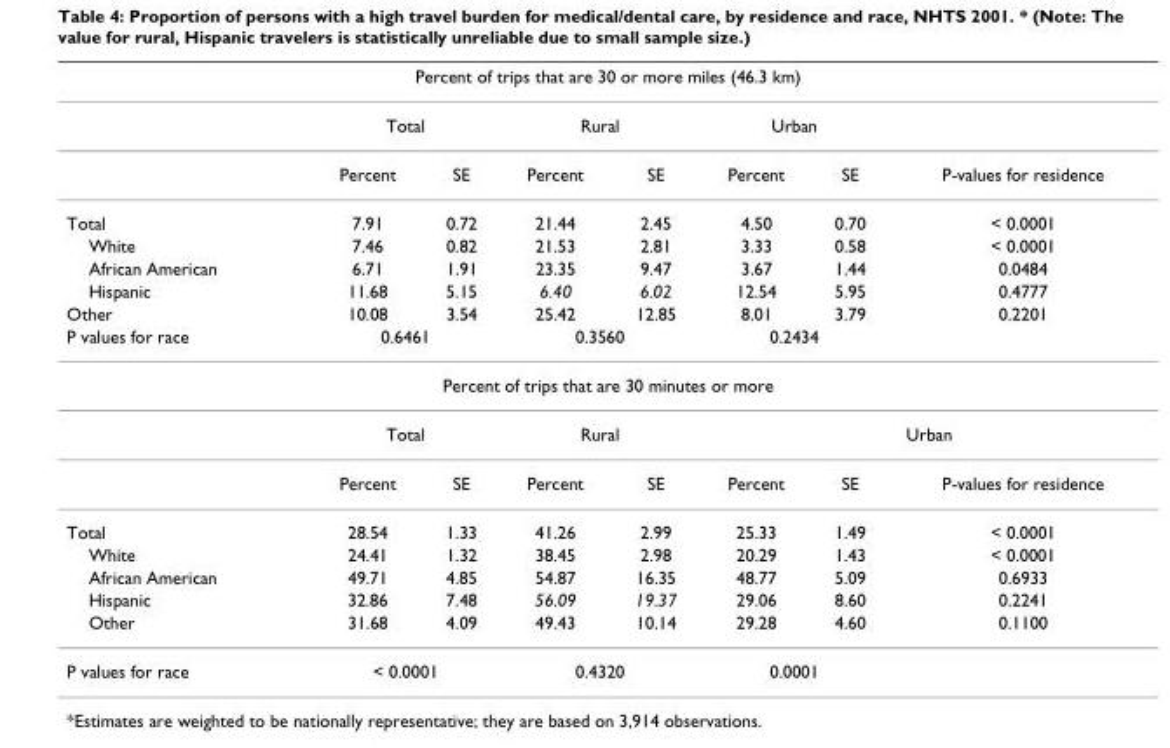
<table><thead><tr><td colspan="8">Percent of trips that are 30 or more miles (46.3 km)</td></tr><tr><td rowspan="2"></td><td colspan="2">Total</td><td colspan="2">Rural</td><td colspan="2">Urban</td><td rowspan="2">P-values for residence</td></tr><tr><td>Percent</td><td>SE</td><td>Percent</td><td>SE</td><td>Percent</td><td>SE</td></tr></thead><tbody><tr><td>Total</td><td>7.91</td><td>0.72</td><td>21.44</td><td>2.45</td><td>4.50</td><td>0.70</td><td>&lt; 0.0001</td></tr><tr><td>White</td><td>7.46</td><td>0.82</td><td>21.53</td><td>2.81</td><td>3.33</td><td>0.58</td><td>&lt; 0.0001</td></tr><tr><td>African American</td><td>6.71</td><td>1.91</td><td>23.35</td><td>9.47</td><td>3.67</td><td>1.44</td><td>0.0484</td></tr><tr><td>Hispanic</td><td>11.68</td><td>5.15</td><td>6.40</td><td>6.02</td><td>12.54</td><td>5.95</td><td>0.4777</td></tr><tr><td>Other</td><td>10.08</td><td>3.54</td><td>25.42</td><td>12.85</td><td>8.01</td><td>3.79</td><td>0.2201</td></tr><tr><td>P values for race</td><td colspan="2">0.6461</td><td colspan="2">0.3560</td><td colspan="2">0.2434</td><td></td></tr><tr><td colspan="8">Percent of trips that are 30 minutes or more</td></tr><tr><td></td><td colspan="2">Total</td><td colspan="2">Rural</td><td colspan="3">Urban</td></tr><tr><td></td><td>Percent</td><td>SE</td><td>Percent</td><td>SE</td><td>Percent</td><td>SE</td><td>P-values for residence</td></tr><tr><td>Total</td><td>28.54</td><td>1.33</td><td>41.26</td><td>2.99</td><td>25.33</td><td>1.49</td><td>&lt; 0.0001</td></tr><tr><td>White</td><td>24.41</td><td>1.32</td><td>38.45</td><td>2.98</td><td>20.29</td><td>1.43</td><td>&lt; 0.0001</td></tr><tr><td>African American</td><td>49.71</td><td>4.85</td><td>54.87</td><td>16.35</td><td>48.77</td><td>5.09</td><td>0.6933</td></tr><tr><td>Hispanic</td><td>32.86</td><td>7.48</td><td>56.09</td><td>19.37</td><td>29.06</td><td>8.60</td><td>0.2241</td></tr><tr><td>Other</td><td>31.68</td><td>4.09</td><td>49.43</td><td>10.14</td><td>29.28</td><td>4.60</td><td>0.1100</td></tr><tr><td>P values for race</td><td colspan="2">&lt; 0.0001</td><td colspan="2">0.4320</td><td colspan="2">0.0001</td><td></td></tr></tbody></table>